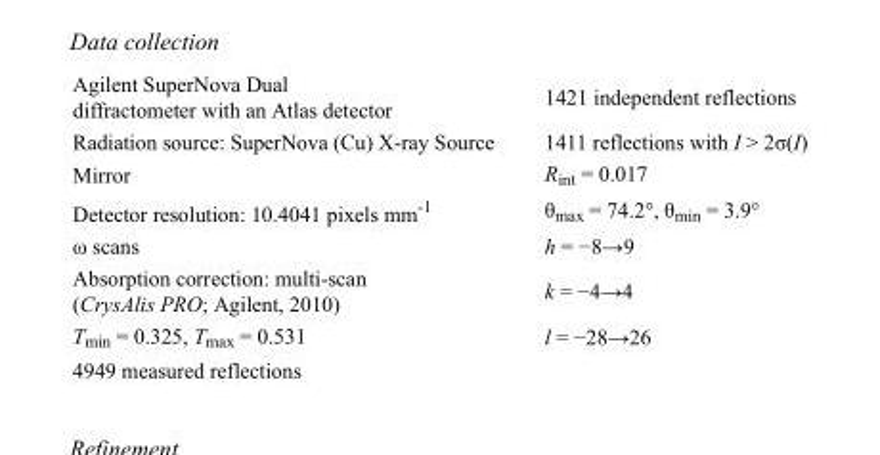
<table><tbody><tr><td>Agilent SuperNova Dual diffractometer with an Atlas detector</td><td>1421 independent reflections</td></tr><tr><td>Radiation source: SuperNova (Cu) X-ray Source</td><td>1411 reflections with I &gt; 2σ(I)</td></tr><tr><td>Mirror</td><td>R<sub>int</sub> = 0.017</td></tr><tr><td>Detector resolution: 10.4041 pixels mm<sup>-1</sup></td><td>θ<sub>max</sub> = 74.2°, θ<sub>min</sub> = 3.9°</td></tr><tr><td>ω scans</td><td>h = −8→9</td></tr><tr><td>Absorption correction: multi-scan (CrysAlis PRO; Agilent, 2010)</td><td>k = −4→4</td></tr><tr><td>T<sub>min</sub> = 0.325, T<sub>max</sub> = 0.531</td><td>l = −28→26</td></tr><tr><td>4949 measured reflections</td><td></td></tr></tbody></table>